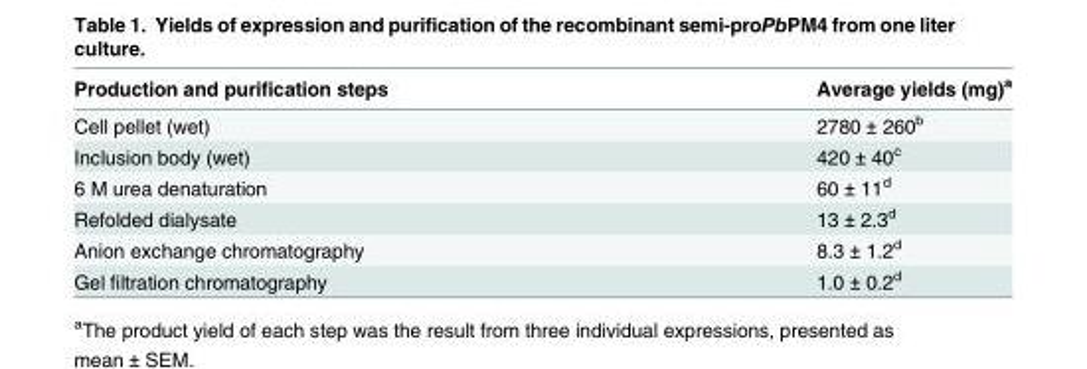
<table><thead><tr><td>Production and purification steps</td><td>Average yields (mg)<sup>a</sup></td></tr></thead><tbody><tr><td>Cell pellet (wet)</td><td>2780 ± 260<sup>b</sup></td></tr><tr><td>Inclusion body (wet)</td><td>420 ± 40<sup>c</sup></td></tr><tr><td>6 M urea denaturation</td><td>60 ± 11<sup>d</sup></td></tr><tr><td>Refolded dialysate</td><td>13 ± 2.3<sup>d</sup></td></tr><tr><td>Anion exchange chromatography</td><td>8.3 ± 1.2<sup>d</sup></td></tr><tr><td>Gel filtration chromatography</td><td>1.0 ± 0.2<sup>d</sup></td></tr></tbody></table>